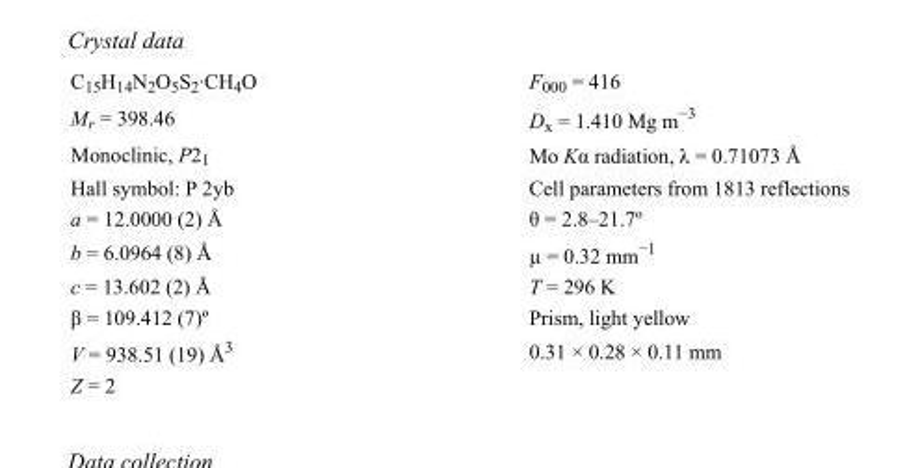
<table><tbody><tr><td>C<sub>15</sub>H<sub>14</sub>N<sub>2</sub>O<sub>5</sub>S<sub>2</sub>·CH<sub>4</sub>O</td><td>F000 = 416</td></tr><tr><td>M<sub>r</sub> = 398.46</td><td>D<sub>x</sub> = 1.410 Mg m<sup>−3</sup></td></tr><tr><td>Monoclinic, P2<sub>1</sub></td><td>Mo Kα radiation, λ = 0.71073 Å</td></tr><tr><td>Hall symbol: P 2yb</td><td>Cell parameters from 1813 reflections</td></tr><tr><td>a = 12.0000 (2) Å</td><td>θ = 2.8–21.7º</td></tr><tr><td>b = 6.0964 (8) Å</td><td>µ = 0.32 mm<sup>−1</sup></td></tr><tr><td>c = 13.602 (2) Å</td><td>T = 296 K</td></tr><tr><td>β = 109.412 (7)º</td><td>Prism, light yellow</td></tr><tr><td>V = 938.51 (19) Å<sup>3</sup></td><td>0.31 × 0.28 × 0.11 mm</td></tr><tr><td>Z = 2</td><td></td></tr></tbody></table>